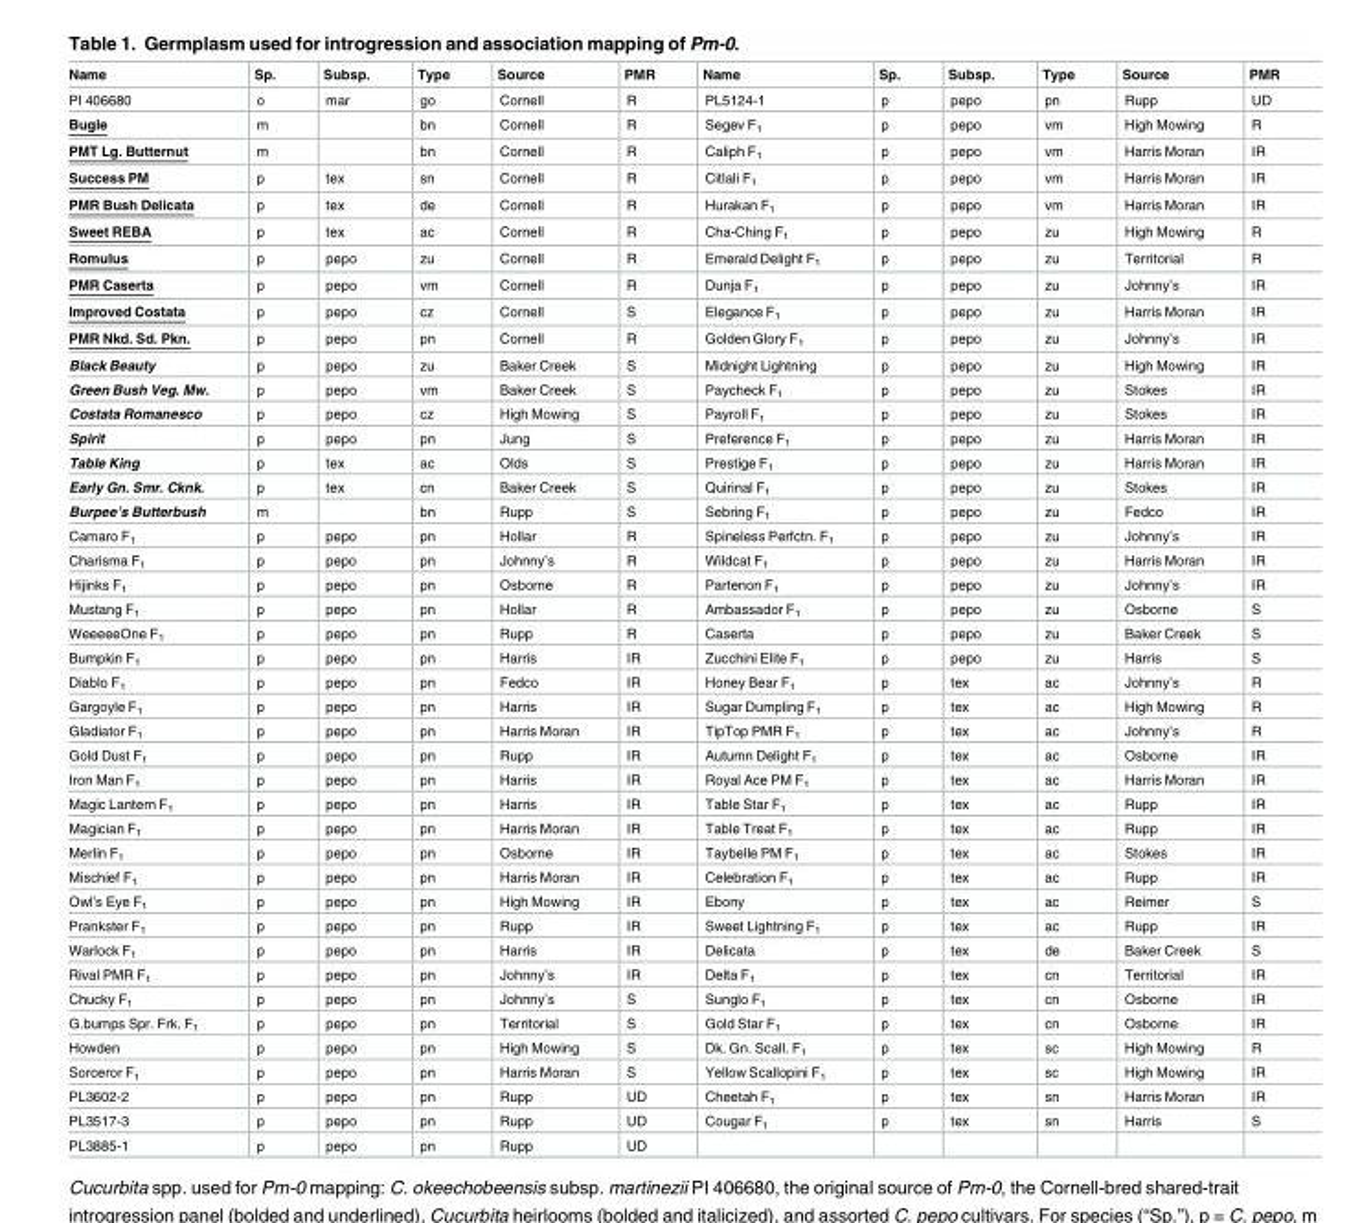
<table><thead><tr><td>Name</td><td>Sp.</td><td>Subsp.</td><td>Type</td><td>Source</td><td>PMR</td><td>Name</td><td>Sp.</td><td>Subsp.</td><td>Type</td><td>Source</td><td>PMR</td></tr></thead><tbody><tr><td>PI 406680</td><td>o</td><td>mar</td><td>go</td><td>Cornell</td><td>R</td><td>PL5124-1</td><td>p</td><td>pepo</td><td>pn</td><td>Rupp</td><td>UD</td></tr><tr><td>Bugle</td><td>m</td><td></td><td>bn</td><td>Cornell</td><td>R</td><td>Segev F<sub>1</sub></td><td>p</td><td>pepo</td><td>vm</td><td>High Mowing</td><td>R</td></tr><tr><td>PMT Lg. Butternut</td><td>m</td><td></td><td>bn</td><td>Cornell</td><td>R</td><td>Caliph F<sub>1</sub></td><td>p</td><td>pepo</td><td>vm</td><td>Harris Moran</td><td>IR</td></tr><tr><td>Success PM</td><td>p</td><td>tex</td><td>sn</td><td>Cornell</td><td>R</td><td>Citlali F<sub>1</sub></td><td>p</td><td>pepo</td><td>vm</td><td>Harris Moran</td><td>IR</td></tr><tr><td>PMR Bush Delicata</td><td>p</td><td>tex</td><td>de</td><td>Cornell</td><td>R</td><td>Hurakan F<sub>1</sub></td><td>p</td><td>pepo</td><td>vm</td><td>Harris Moran</td><td>IR</td></tr><tr><td>Sweet REBA</td><td>p</td><td>tex</td><td>ac</td><td>Cornell</td><td>R</td><td>Cha-Ching F<sub>1</sub></td><td>p</td><td>pepo</td><td>zu</td><td>High Mowing</td><td>R</td></tr><tr><td>Romulus</td><td>p</td><td>pepo</td><td>zu</td><td>Cornell</td><td>R</td><td>Emerald Delight F<sub>1</sub></td><td>p</td><td>pepo</td><td>zu</td><td>Territorial</td><td>R</td></tr><tr><td>PMR Caserta</td><td>p</td><td>pepo</td><td>vm</td><td>Cornell</td><td>R</td><td>Dunja F<sub>1</sub></td><td>p</td><td>pepo</td><td>zu</td><td>Johnny’s</td><td>IR</td></tr><tr><td>Improved Costata</td><td>p</td><td>pepo</td><td>cz</td><td>Cornell</td><td>S</td><td>Elegance F<sub>1</sub></td><td>p</td><td>pepo</td><td>zu</td><td>Harris Moran</td><td>IR</td></tr><tr><td>PMR Nkd. Sd. Pkn.</td><td>p</td><td>pepo</td><td>pn</td><td>Cornell</td><td>R</td><td>Golden Glory F<sub>1</sub></td><td>p</td><td>pepo</td><td>zu</td><td>Johnny’s</td><td>IR</td></tr><tr><td>Black Beauty</td><td>p</td><td>pepo</td><td>zu</td><td>Baker Creek</td><td>S</td><td>Midnight Lightning</td><td>p</td><td>pepo</td><td>zu</td><td>High Mowing</td><td>IR</td></tr><tr><td>Green Bush Veg. Mw.</td><td>p</td><td>pepo</td><td>vm</td><td>Baker Creek</td><td>S</td><td>Paycheck F<sub>1</sub></td><td>p</td><td>pepo</td><td>zu</td><td>Stokes</td><td>IR</td></tr><tr><td>Costata Romanesco</td><td>p</td><td>pepo</td><td>cz</td><td>High Mowing</td><td>S</td><td>Payroll F<sub>1</sub></td><td>p</td><td>pepo</td><td>zu</td><td>Stokes</td><td>IR</td></tr><tr><td>Spirit</td><td>p</td><td>pepo</td><td>pn</td><td>Jung</td><td>S</td><td>Preference F<sub>1</sub></td><td>p</td><td>pepo</td><td>zu</td><td>Harris Moran</td><td>IR</td></tr><tr><td>Table King</td><td>p</td><td>tex</td><td>ac</td><td>Olds</td><td>S</td><td>Prestige F<sub>1</sub></td><td>p</td><td>pepo</td><td>zu</td><td>Harris Moran</td><td>IR</td></tr><tr><td>Early Gn. Smr. Cknk.</td><td>p</td><td>tex</td><td>cn</td><td>Baker Creek</td><td>S</td><td>Quirinal F<sub>1</sub></td><td>p</td><td>pepo</td><td>zu</td><td>Stokes</td><td>IR</td></tr><tr><td>Burpee’s Butterbush</td><td>m</td><td></td><td>bn</td><td>Rupp</td><td>S</td><td>Sebring F<sub>1</sub></td><td>p</td><td>pepo</td><td>zu</td><td>Fedco</td><td>IR</td></tr><tr><td>Camaro F<sub>1</sub></td><td>p</td><td>pepo</td><td>pn</td><td>Hollar</td><td>R</td><td>Spineless Perfctn. F<sub>1</sub></td><td>p</td><td>pepo</td><td>zu</td><td>Johnny’s</td><td>IR</td></tr><tr><td>Charisma F<sub>1</sub></td><td>p</td><td>pepo</td><td>pn</td><td>Johnny’s</td><td>R</td><td>Wildcat F<sub>1</sub></td><td>p</td><td>pepo</td><td>zu</td><td>Harris Moran</td><td>IR</td></tr><tr><td>Hijinks F<sub>1</sub></td><td>p</td><td>pepo</td><td>pn</td><td>Osborne</td><td>R</td><td>Partenon F<sub>1</sub></td><td>p</td><td>pepo</td><td>zu</td><td>Johnny’s</td><td>IR</td></tr><tr><td>Mustang F<sub>1</sub></td><td>p</td><td>pepo</td><td>pn</td><td>Hollar</td><td>R</td><td>Ambassador F<sub>1</sub></td><td>p</td><td>pepo</td><td>zu</td><td>Osborne</td><td>S</td></tr><tr><td>WeeeeeOne F<sub>1</sub></td><td>p</td><td>pepo</td><td>pn</td><td>Rupp</td><td>R</td><td>Caserta</td><td>p</td><td>pepo</td><td>zu</td><td>Baker Creek</td><td>S</td></tr><tr><td>Bumpkin F<sub>1</sub></td><td>p</td><td>pepo</td><td>pn</td><td>Harris</td><td>IR</td><td>Zucchini Elite F<sub>1</sub></td><td>p</td><td>pepo</td><td>zu</td><td>Harris</td><td>S</td></tr><tr><td>Diablo F<sub>1</sub></td><td>p</td><td>pepo</td><td>pn</td><td>Fedco</td><td>IR</td><td>Honey Bear F<sub>1</sub></td><td>p</td><td>tex</td><td>ac</td><td>Johnny’s</td><td>R</td></tr><tr><td>Gargoyle F<sub>1</sub></td><td>p</td><td>pepo</td><td>pn</td><td>Harris</td><td>IR</td><td>Sugar Dumpling F<sub>1</sub></td><td>p</td><td>tex</td><td>ac</td><td>High Mowing</td><td>R</td></tr><tr><td>Gladiator F<sub>1</sub></td><td>p</td><td>pepo</td><td>pn</td><td>Harris Moran</td><td>IR</td><td>TipTop PMR F<sub>1</sub></td><td>p</td><td>tex</td><td>ac</td><td>Johnny’s</td><td>R</td></tr><tr><td>Gold Dust F<sub>1</sub></td><td>p</td><td>pepo</td><td>pn</td><td>Rupp</td><td>IR</td><td>Autumn Delight F<sub>1</sub></td><td>p</td><td>tex</td><td>ac</td><td>Osborne</td><td>IR</td></tr><tr><td>Iron Man F<sub>1</sub></td><td>p</td><td>pepo</td><td>pn</td><td>Harris</td><td>IR</td><td>Royal Ace PM F<sub>1</sub></td><td>p</td><td>tex</td><td>ac</td><td>Harris Moran</td><td>IR</td></tr><tr><td>Magic Lantern F<sub>1</sub></td><td>p</td><td>pepo</td><td>pn</td><td>Harris</td><td>IR</td><td>Table Star F<sub>1</sub></td><td>p</td><td>tex</td><td>ac</td><td>Rupp</td><td>IR</td></tr><tr><td>Magician F<sub>1</sub></td><td>p</td><td>pepo</td><td>pn</td><td>Harris Moran</td><td>IR</td><td>Table Treat F<sub>1</sub></td><td>p</td><td>tex</td><td>ac</td><td>Rupp</td><td>IR</td></tr><tr><td>Merlin F<sub>1</sub></td><td>p</td><td>pepo</td><td>pn</td><td>Osborne</td><td>IR</td><td>Taybelle PM F<sub>1</sub></td><td>p</td><td>tex</td><td>ac</td><td>Stokes</td><td>IR</td></tr><tr><td>Mischief F<sub>1</sub></td><td>p</td><td>pepo</td><td>pn</td><td>Harris Moran</td><td>IR</td><td>Celebration F<sub>1</sub></td><td>p</td><td>tex</td><td>ac</td><td>Rupp</td><td>IR</td></tr><tr><td>Owl’s Eye F<sub>1</sub></td><td>p</td><td>pepo</td><td>pn</td><td>High Mowing</td><td>IR</td><td>Ebony</td><td>p</td><td>tex</td><td>ac</td><td>Reimer</td><td>S</td></tr><tr><td>Prankster F<sub>1</sub></td><td>p</td><td>pepo</td><td>pn</td><td>Rupp</td><td>IR</td><td>Sweet Lightning F<sub>1</sub></td><td>p</td><td>tex</td><td>ac</td><td>Rupp</td><td>IR</td></tr><tr><td>Warlock F<sub>1</sub></td><td>p</td><td>pepo</td><td>pn</td><td>Harris</td><td>IR</td><td>Delicata</td><td>p</td><td>tex</td><td>de</td><td>Baker Creek</td><td>S</td></tr><tr><td>Rival PMR F<sub>1</sub></td><td>p</td><td>pepo</td><td>pn</td><td>Johnny’s</td><td>IR</td><td>Delta F<sub>1</sub></td><td>p</td><td>tex</td><td>cn</td><td>Territorial</td><td>IR</td></tr><tr><td>Chucky F<sub>1</sub></td><td>p</td><td>pepo</td><td>pn</td><td>Johnny’s</td><td>S</td><td>Sunglo F<sub>1</sub></td><td>p</td><td>tex</td><td>cn</td><td>Osborne</td><td>IR</td></tr><tr><td>G.bumps Spr. Frk. F<sub>1</sub></td><td>p</td><td>pepo</td><td>pn</td><td>Territorial</td><td>S</td><td>Gold Star F<sub>1</sub></td><td>p</td><td>tex</td><td>cn</td><td>Osborne</td><td>IR</td></tr><tr><td>Howden</td><td>p</td><td>pepo</td><td>pn</td><td>High Mowing</td><td>S</td><td>Dk. Gn. Scall. F<sub>1</sub></td><td>p</td><td>tex</td><td>sc</td><td>High Mowing</td><td>R</td></tr><tr><td>Sorceror F<sub>1</sub></td><td>p</td><td>pepo</td><td>pn</td><td>Harris Moran</td><td>S</td><td>Yellow Scallopini F<sub>1</sub></td><td>p</td><td>tex</td><td>sc</td><td>High Mowing</td><td>IR</td></tr><tr><td>PL3602-2</td><td>p</td><td>pepo</td><td>pn</td><td>Rupp</td><td>UD</td><td>Cheetah F<sub>1</sub></td><td>p</td><td>tex</td><td>sn</td><td>Harris Moran</td><td>IR</td></tr><tr><td>PL3517-3</td><td>p</td><td>pepo</td><td>pn</td><td>Rupp</td><td>UD</td><td>Cougar F<sub>1</sub></td><td>p</td><td>tex</td><td>sn</td><td>Harris</td><td>S</td></tr><tr><td>PL3885-1</td><td>p</td><td>pepo</td><td>pn</td><td>Rupp</td><td>UD</td><td></td><td></td><td></td><td></td><td></td><td></td></tr></tbody></table>